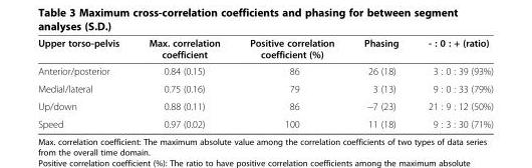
<table><thead><tr><td>Upper torso-pelvis</td><td>Max. correlation coefficient</td><td>Positive correlation coefficient (%)</td><td>Phasing</td><td>- : 0 : + (ratio)</td></tr></thead><tbody><tr><td>Anterior/posterior</td><td>0.84 (0.15)</td><td>86</td><td>26 (18)</td><td>3 : 0 : 39 (93%)</td></tr><tr><td>Medial/lateral</td><td>0.75 (0.16)</td><td>79</td><td>3 (13)</td><td>9 : 0 : 33 (79%)</td></tr><tr><td>Up/down</td><td>0.88 (0.11)</td><td>86</td><td>−7 (23)</td><td>21 : 9 : 12 (50%)</td></tr><tr><td>Speed</td><td>0.97 (0.02)</td><td>100</td><td>11 (18)</td><td>9 : 3 : 30 (71%)</td></tr></tbody></table>